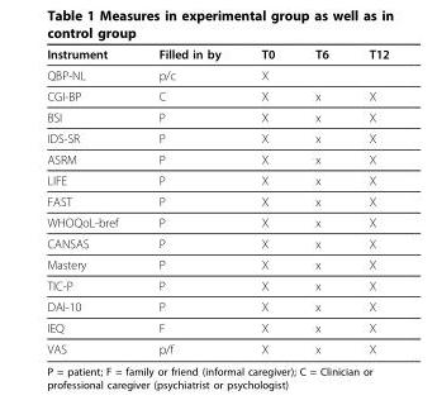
<table><thead><tr><td>Instrument</td><td>Filled in by</td><td>T0</td><td>T6</td><td>T12</td></tr></thead><tbody><tr><td>QBP-NL</td><td>p/c</td><td>X</td><td></td><td></td></tr><tr><td>CGI-BP</td><td>C</td><td>X</td><td>x</td><td>X</td></tr><tr><td>BSI</td><td>P</td><td>X</td><td>x</td><td>X</td></tr><tr><td>IDS-SR</td><td>P</td><td>X</td><td>x</td><td>X</td></tr><tr><td>ASRM</td><td>P</td><td>X</td><td>x</td><td>X</td></tr><tr><td>LIFE</td><td>P</td><td>X</td><td>x</td><td>X</td></tr><tr><td>FAST</td><td>P</td><td>X</td><td>x</td><td>X</td></tr><tr><td>WHOQoL-bref</td><td>P</td><td>X</td><td>x</td><td>X</td></tr><tr><td>CANSAS</td><td>P</td><td>X</td><td>x</td><td>X</td></tr><tr><td>Mastery</td><td>P</td><td>X</td><td>x</td><td>X</td></tr><tr><td>TIC-P</td><td>P</td><td>X</td><td>x</td><td>X</td></tr><tr><td>DAI-10</td><td>P</td><td>X</td><td>x</td><td>X</td></tr><tr><td>IEQ</td><td>F</td><td>X</td><td>x</td><td>X</td></tr><tr><td>VAS</td><td>p/f</td><td>X</td><td>x</td><td>X</td></tr></tbody></table>